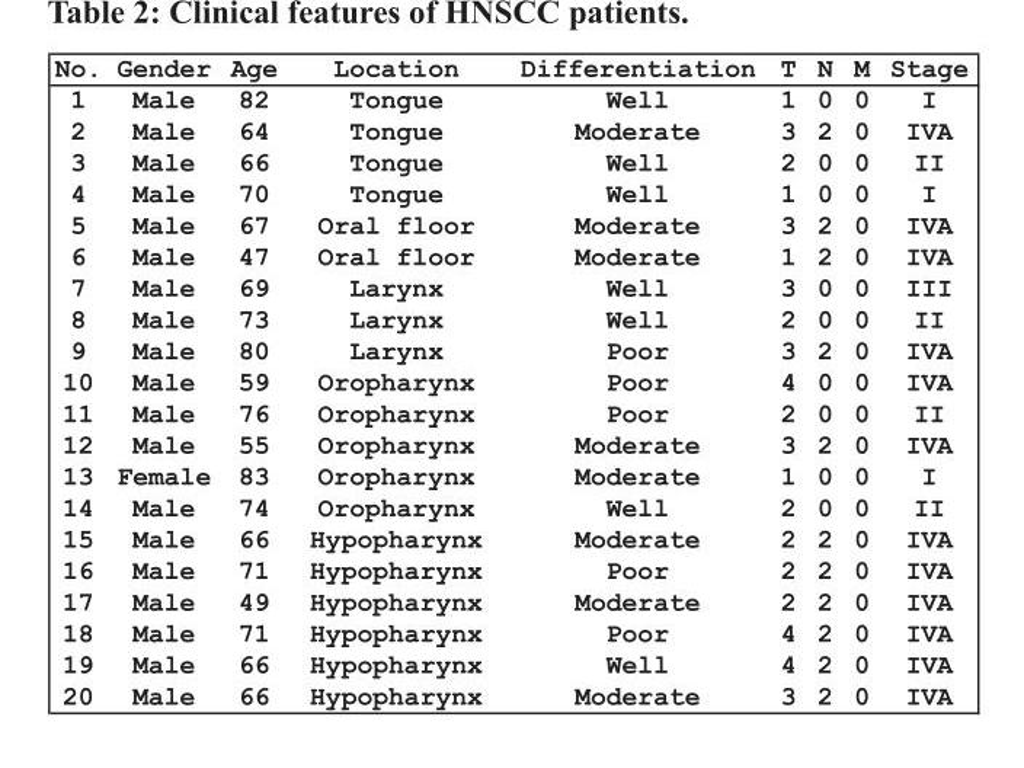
<table><thead><tr><td>No.</td><td>Gender</td><td>Age</td><td>Location</td><td>Differentiation</td><td>T</td><td>N</td><td>M</td><td>Stage</td></tr></thead><tbody><tr><td>1</td><td>Male</td><td>82</td><td>Tongue</td><td>Well</td><td>1</td><td>0</td><td>0</td><td>I</td></tr><tr><td>2</td><td>Male</td><td>64</td><td>Tongue</td><td>Moderate</td><td>3</td><td>2</td><td>0</td><td>IVA</td></tr><tr><td>3</td><td>Male</td><td>66</td><td>Tongue</td><td>Well</td><td>2</td><td>0</td><td>0</td><td>II</td></tr><tr><td>4</td><td>Male</td><td>70</td><td>Tongue</td><td>Well</td><td>1</td><td>0</td><td>0</td><td>I</td></tr><tr><td>5</td><td>Male</td><td>67</td><td>Oral floor</td><td>Moderate</td><td>3</td><td>2</td><td>0</td><td>IVA</td></tr><tr><td>6</td><td>Male</td><td>47</td><td>Oral floor</td><td>Moderate</td><td>1</td><td>2</td><td>0</td><td>IVA</td></tr><tr><td>7</td><td>Male</td><td>69</td><td>Larynx</td><td>Well</td><td>3</td><td>0</td><td>0</td><td>III</td></tr><tr><td>8</td><td>Male</td><td>73</td><td>Larynx</td><td>Well</td><td>2</td><td>0</td><td>0</td><td>II</td></tr><tr><td>9</td><td>Male</td><td>80</td><td>Larynx</td><td>Poor</td><td>3</td><td>2</td><td>0</td><td>IVA</td></tr><tr><td>10</td><td>Male</td><td>59</td><td>Oropharynx</td><td>Poor</td><td>4</td><td>0</td><td>0</td><td>IVA</td></tr><tr><td>11</td><td>Male</td><td>76</td><td>Oropharynx</td><td>Poor</td><td>2</td><td>0</td><td>0</td><td>II</td></tr><tr><td>12</td><td>Male</td><td>55</td><td>Oropharynx</td><td>Moderate</td><td>3</td><td>2</td><td>0</td><td>IVA</td></tr><tr><td>13</td><td>Female</td><td>83</td><td>Oropharynx</td><td>Moderate</td><td>1</td><td>0</td><td>0</td><td>I</td></tr><tr><td>14</td><td>Male</td><td>74</td><td>Oropharynx</td><td>Well</td><td>2</td><td>0</td><td>0</td><td>II</td></tr><tr><td>15</td><td>Male</td><td>66</td><td>Hypopharynx</td><td>Moderate</td><td>2</td><td>2</td><td>0</td><td>IVA</td></tr><tr><td>16</td><td>Male</td><td>71</td><td>Hypopharynx</td><td>Poor</td><td>2</td><td>2</td><td>0</td><td>IVA</td></tr><tr><td>17</td><td>Male</td><td>49</td><td>Hypopharynx</td><td>Moderate</td><td>2</td><td>2</td><td>0</td><td>IVA</td></tr><tr><td>18</td><td>Male</td><td>71</td><td>Hypopharynx</td><td>Poor</td><td>4</td><td>2</td><td>0</td><td>IVA</td></tr><tr><td>19</td><td>Male</td><td>66</td><td>Hypopharynx</td><td>Well</td><td>4</td><td>2</td><td>0</td><td>IVA</td></tr><tr><td>20</td><td>Male</td><td>66</td><td>Hypopharynx</td><td>Moderate</td><td>3</td><td>2</td><td>0</td><td>IVA</td></tr></tbody></table>